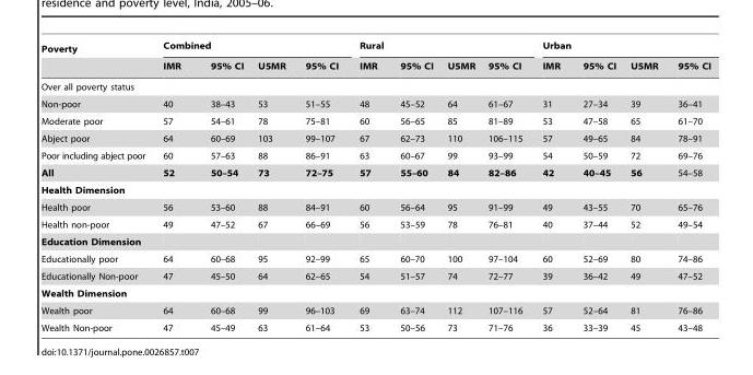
<table><thead><tr><td rowspan="2">Poverty</td><td colspan="4">Combined</td><td colspan="4">Rural</td><td colspan="4">Urban</td></tr><tr><td>IMR</td><td>95% CI</td><td>U5MR</td><td>95% CI</td><td>IMR</td><td>95% CI</td><td>U5MR</td><td>95% CI</td><td>IMR</td><td>95% CI</td><td>U5MR</td><td>95% CI</td></tr></thead><tbody><tr><td colspan="13">Over all poverty status</td></tr><tr><td>Non-poor</td><td>40</td><td>38–43</td><td>53</td><td>51–55</td><td>48</td><td>45–52</td><td>64</td><td>61–67</td><td>31</td><td>27–34</td><td>39</td><td>36–41</td></tr><tr><td>Moderate poor</td><td>57</td><td>54–61</td><td>78</td><td>75–81</td><td>60</td><td>56–65</td><td>85</td><td>81–89</td><td>53</td><td>47–58</td><td>65</td><td>61–70</td></tr><tr><td>Abject poor</td><td>64</td><td>60–69</td><td>103</td><td>99–107</td><td>67</td><td>62–73</td><td>110</td><td>106–115</td><td>57</td><td>49–65</td><td>84</td><td>78–91</td></tr><tr><td>Poor including abject poor</td><td>60</td><td>57–63</td><td>88</td><td>86–91</td><td>63</td><td>60–67</td><td>99</td><td>93–99</td><td>54</td><td>50–59</td><td>72</td><td>69–76</td></tr><tr><td>All</td><td>52</td><td>50–54</td><td>73</td><td>72–75</td><td>57</td><td>55–60</td><td>84</td><td>82–86</td><td>42</td><td>40–45</td><td>56</td><td>54–58</td></tr><tr><td colspan="13">Health Dimension</td></tr><tr><td>Health poor</td><td>56</td><td>53–60</td><td>88</td><td>84–91</td><td>60</td><td>56–64</td><td>95</td><td>91–99</td><td>49</td><td>43–55</td><td>70</td><td>65–76</td></tr><tr><td>Health non-poor</td><td>49</td><td>47–52</td><td>67</td><td>66–69</td><td>56</td><td>53–59</td><td>78</td><td>76–81</td><td>40</td><td>37–44</td><td>52</td><td>49–54</td></tr><tr><td colspan="13">Education Dimension</td></tr><tr><td>Educationally poor</td><td>64</td><td>60–68</td><td>95</td><td>92–99</td><td>65</td><td>60–70</td><td>100</td><td>97–104</td><td>60</td><td>52–69</td><td>80</td><td>74–86</td></tr><tr><td>Educationally Non-poor</td><td>47</td><td>45–50</td><td>64</td><td>62–65</td><td>54</td><td>51–57</td><td>74</td><td>72–77</td><td>39</td><td>36–42</td><td>49</td><td>47–52</td></tr><tr><td colspan="13">Wealth Dimension</td></tr><tr><td>Wealth poor</td><td>64</td><td>60–68</td><td>99</td><td>96–103</td><td>69</td><td>63–74</td><td>112</td><td>107–116</td><td>57</td><td>52–64</td><td>81</td><td>76–86</td></tr><tr><td>Wealth Non-poor</td><td>47</td><td>45–49</td><td>63</td><td>61–64</td><td>53</td><td>50–56</td><td>73</td><td>71–76</td><td>36</td><td>33–39</td><td>45</td><td>43–48</td></tr></tbody></table>